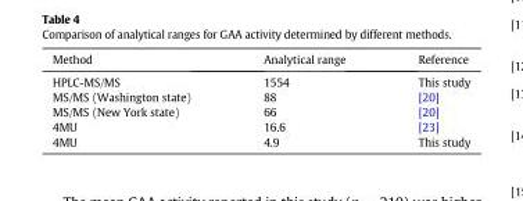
<table><thead><tr><td>Method</td><td>Analytical range</td><td>Reference</td></tr></thead><tbody><tr><td>HPLC-MS/MS</td><td>1554</td><td>This study</td></tr><tr><td>MS/MS (Washington state)</td><td>88</td><td>[20]</td></tr><tr><td>MS/MS (New York state)</td><td>66</td><td>[20]</td></tr><tr><td>4MU</td><td>16.6</td><td>[23]</td></tr><tr><td>4MU</td><td>4.9</td><td>This study</td></tr></tbody></table>